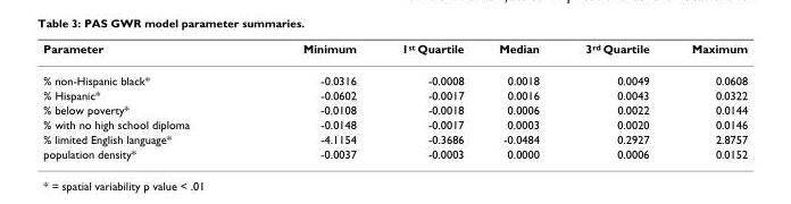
<table><thead><tr><td>Parameter</td><td>Minimum</td><td>1<sup>st</sup> Quartile</td><td>Median</td><td>3<sup>rd</sup> Quartile</td><td>Maximum</td></tr></thead><tbody><tr><td>% non-Hispanic black*</td><td>-0.0316</td><td>-0.0008</td><td>0.0018</td><td>0.0049</td><td>0.0608</td></tr><tr><td>% Hispanic*</td><td>-0.0602</td><td>-0.0017</td><td>0.0016</td><td>0.0043</td><td>0.0322</td></tr><tr><td>% below poverty*</td><td>-0.0108</td><td>-0.0018</td><td>0.0006</td><td>0.0022</td><td>0.0144</td></tr><tr><td>% with no high school diploma</td><td>-0.0148</td><td>-0.0017</td><td>0.0003</td><td>0.0020</td><td>0.0146</td></tr><tr><td>% limited English language*</td><td>-4.1154</td><td>-0.3686</td><td>-0.0484</td><td>0.2927</td><td>2.8757</td></tr><tr><td>population density*</td><td>-0.0037</td><td>-0.0003</td><td>0.0000</td><td>0.0006</td><td>0.0152</td></tr></tbody></table>